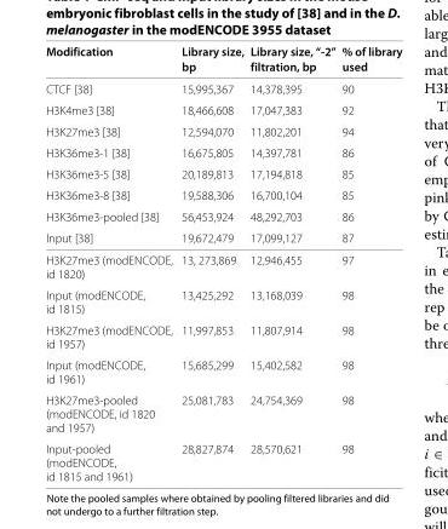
<table><thead><tr><td rowspan="2">Modification</td><td rowspan="2">Library size, bp</td><td rowspan="2">Library size, “-2” filtration, bp</td><td rowspan="2">% of library used</td></tr><tr></tr></thead><tbody><tr><td>CTCF [38]</td><td>15,995,367</td><td>14,378,395</td><td>90</td></tr><tr><td>H3K4me3 [38]</td><td>18,466,608</td><td>17,047,383</td><td>92</td></tr><tr><td>H3K27me3 [38]</td><td>12,594,070</td><td>11,802,201</td><td>94</td></tr><tr><td>H3K36me3-1 [38]</td><td>16,675,805</td><td>14,397,781</td><td>86</td></tr><tr><td>H3K36me3-5 [38]</td><td>20,189,813</td><td>17,194,818</td><td>85</td></tr><tr><td>H3K36me3-8 [38]</td><td>19,588,306</td><td>16,700,104</td><td>85</td></tr><tr><td>H3K36me3-pooled [38]</td><td>56,453,924</td><td>48,292,703</td><td>86</td></tr><tr><td>Input [38]</td><td>19,672,479</td><td>17,099,127</td><td>87</td></tr><tr><td>H3K27me3 (modENCODE, id 1820)</td><td>13, 273,869</td><td>12,946,455</td><td>97</td></tr><tr><td>Input (modENCODE, id 1815)</td><td>13,425,292</td><td>13,168,039</td><td>98</td></tr><tr><td>H3K27me3 (modENCODE, id 1957)</td><td>11,997,853</td><td>11,807,914</td><td>98</td></tr><tr><td>Input (modENCODE, id 1961)</td><td>15,685,299</td><td>15,402,582</td><td>98</td></tr><tr><td>H3K27me3-pooled (modENCODE, id 1820 and 1957)</td><td>25,081,783</td><td>24,754,369</td><td>98</td></tr><tr><td>Input-pooled (modENCODE, id 1815 and 1961)</td><td>28,827,874</td><td>28,570,621</td><td>98</td></tr></tbody></table>